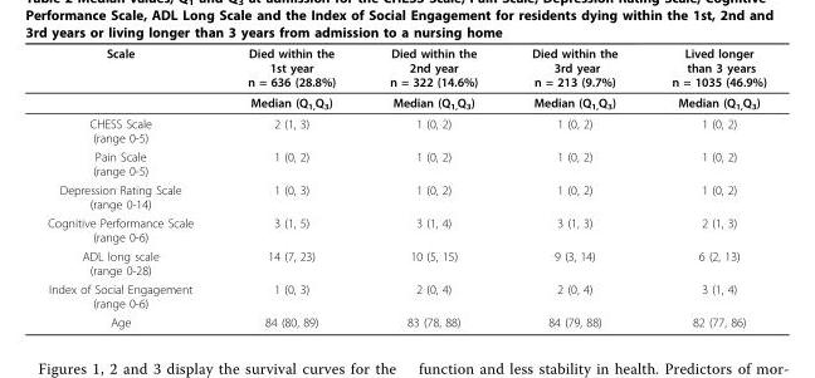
<table><thead><tr><td>Scale</td><td>Died within the 1st year n = 636 (28.8%)</td><td>Died within the 2nd year n = 322 (14.6%)</td><td>Died within the 3rd year n = 213 (9.7%)</td><td>Lived longer than 3 years n = 1035 (46.9%)</td></tr></thead><tbody><tr><td></td><td>Median (Q<sub>1,</sub>Q<sub>3</sub>)</td><td>Median (Q<sub>1,</sub>Q<sub>3</sub>)</td><td>Median (Q<sub>1,</sub>Q<sub>3</sub>)</td><td>Median (Q<sub>1,</sub>Q<sub>3</sub>)</td></tr><tr><td>CHESS Scale (range 0-5)</td><td>2 (1, 3)</td><td>1 (0, 2)</td><td>1 (0, 2)</td><td>1 (0, 2)</td></tr><tr><td>Pain Scale (range 0-5)</td><td>1 (0, 2)</td><td>1 (0, 2)</td><td>1 (0, 2)</td><td>1 (0, 2)</td></tr><tr><td>Depression Rating Scale (range 0-14)</td><td>1 (0, 3)</td><td>1 (0, 2)</td><td>1 (0, 2)</td><td>1 (0, 2)</td></tr><tr><td>Cognitive Performance Scale (range 0-6)</td><td>3 (1, 5)</td><td>3 (1, 4)</td><td>3 (1, 3)</td><td>2 (1, 3)</td></tr><tr><td>ADL long scale (range 0-28)</td><td>14 (7, 23)</td><td>10 (5, 15)</td><td>9 (3, 14)</td><td>6 (2, 13)</td></tr><tr><td>Index of Social Engagement (range 0-6)</td><td>1 (0, 3)</td><td>2 (0, 4)</td><td>2 (0, 4)</td><td>3 (1, 4)</td></tr><tr><td>Age</td><td>84 (80, 89)</td><td>83 (78, 88)</td><td>84 (79, 88)</td><td>82 (77, 86)</td></tr></tbody></table>